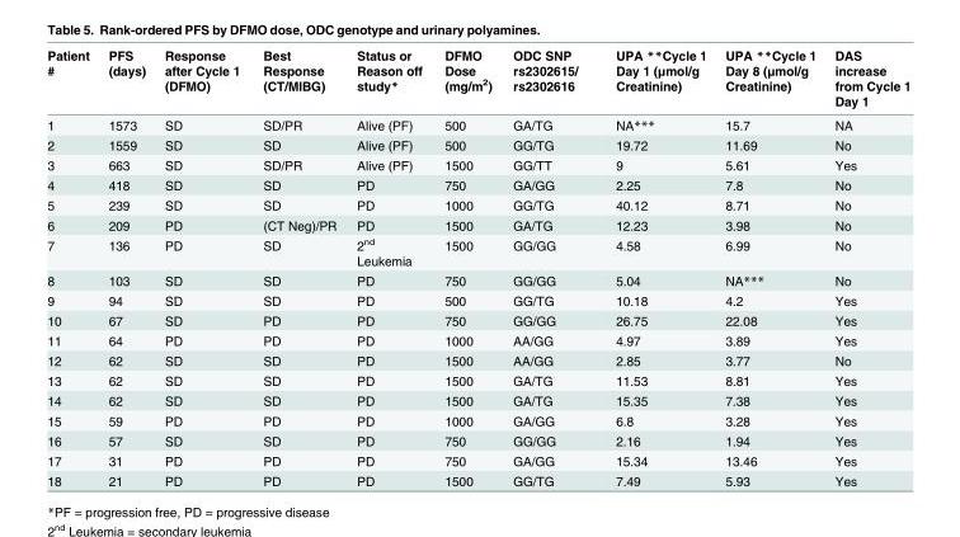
<table><thead><tr><td>Patient #</td><td>PFS (days)</td><td>Response after Cycle 1 (DFMO)</td><td>Best Response (CT/MIBG)</td><td>Status or Reason off study*</td><td>DFMO Dose (mg/m<sup>2</sup>)</td><td>ODC SNP rs2302615/ rs2302616</td><td>UPA **Cycle 1 Day 1 (μmol/g Creatinine)</td><td>UPA **Cycle 1 Day 8 (μmol/g Creatinine)</td><td>DAS increase from Cycle 1 Day 1</td></tr></thead><tbody><tr><td>1</td><td>1573</td><td>SD</td><td>SD/PR</td><td>Alive (PF)</td><td>500</td><td>GA/TG</td><td>NA***</td><td>15.7</td><td>NA</td></tr><tr><td>2</td><td>1559</td><td>SD</td><td>SD</td><td>Alive (PF)</td><td>500</td><td>GG/TG</td><td>19.72</td><td>11.69</td><td>No</td></tr><tr><td>3</td><td>663</td><td>SD</td><td>SD/PR</td><td>Alive (PF)</td><td>1500</td><td>GG/TT</td><td>9</td><td>5.61</td><td>Yes</td></tr><tr><td>4</td><td>418</td><td>SD</td><td>SD</td><td>PD</td><td>750</td><td>GA/GG</td><td>2.25</td><td>7.8</td><td>No</td></tr><tr><td>5</td><td>239</td><td>SD</td><td>SD</td><td>PD</td><td>1000</td><td>GG/TG</td><td>40.12</td><td>8.71</td><td>No</td></tr><tr><td>6</td><td>209</td><td>PD</td><td>(CT Neg)/PR</td><td>PD</td><td>1500</td><td>GA/TG</td><td>12.23</td><td>3.98</td><td>No</td></tr><tr><td>7</td><td>136</td><td>PD</td><td>SD</td><td>2<sup>nd</sup> Leukemia</td><td>1500</td><td>GG/GG</td><td>4.58</td><td>6.99</td><td>No</td></tr><tr><td>8</td><td>103</td><td>SD</td><td>SD</td><td>PD</td><td>750</td><td>GG/GG</td><td>5.04</td><td>NA***</td><td>No</td></tr><tr><td>9</td><td>94</td><td>SD</td><td>SD</td><td>PD</td><td>500</td><td>GG/TG</td><td>10.18</td><td>4.2</td><td>Yes</td></tr><tr><td>10</td><td>67</td><td>SD</td><td>PD</td><td>PD</td><td>750</td><td>GG/GG</td><td>26.75</td><td>22.08</td><td>Yes</td></tr><tr><td>11</td><td>64</td><td>PD</td><td>PD</td><td>PD</td><td>1000</td><td>AA/GG</td><td>4.97</td><td>3.89</td><td>Yes</td></tr><tr><td>12</td><td>62</td><td>SD</td><td>SD</td><td>PD</td><td>1500</td><td>AA/GG</td><td>2.85</td><td>3.77</td><td>No</td></tr><tr><td>13</td><td>62</td><td>SD</td><td>SD</td><td>PD</td><td>1500</td><td>GA/TG</td><td>11.53</td><td>8.81</td><td>Yes</td></tr><tr><td>14</td><td>62</td><td>SD</td><td>SD</td><td>PD</td><td>1500</td><td>GA/TG</td><td>15.35</td><td>7.38</td><td>Yes</td></tr><tr><td>15</td><td>59</td><td>PD</td><td>PD</td><td>PD</td><td>1000</td><td>GA/GG</td><td>6.8</td><td>3.28</td><td>Yes</td></tr><tr><td>16</td><td>57</td><td>SD</td><td>SD</td><td>PD</td><td>750</td><td>GG/GG</td><td>2.16</td><td>1.94</td><td>Yes</td></tr><tr><td>17</td><td>31</td><td>PD</td><td>PD</td><td>PD</td><td>750</td><td>GA/GG</td><td>15.34</td><td>13.46</td><td>Yes</td></tr><tr><td>18</td><td>21</td><td>PD</td><td>PD</td><td>PD</td><td>1500</td><td>GG/TG</td><td>7.49</td><td>5.93</td><td>Yes</td></tr></tbody></table>